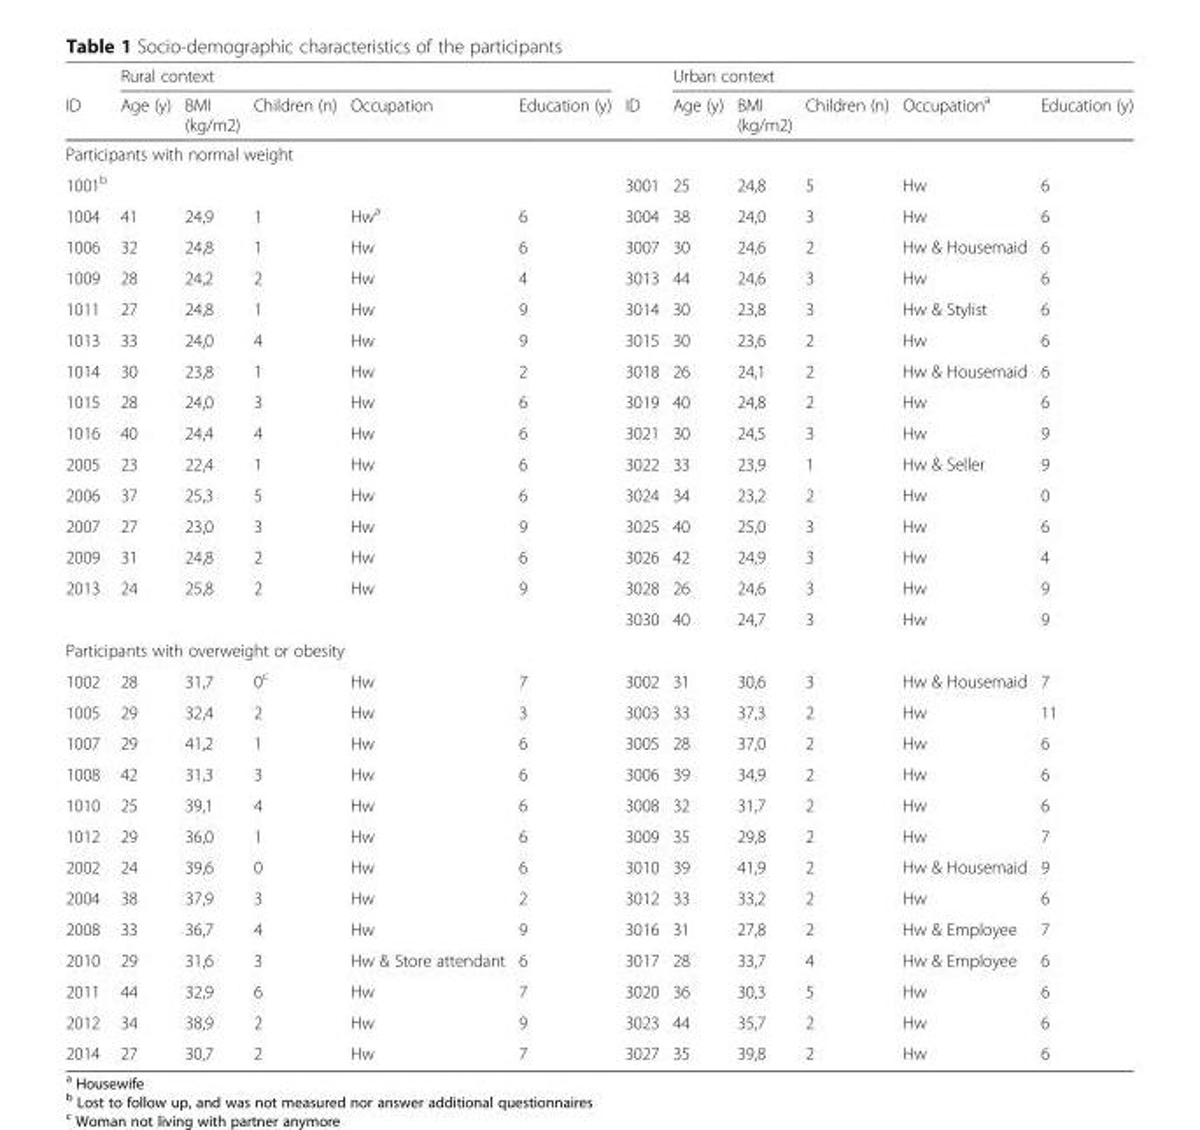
<table><thead><tr><td rowspan="2">ID</td><td colspan="5">Rural context</td><td rowspan="2">ID</td><td colspan="5">Urban context</td></tr><tr><td>Age (y)</td><td>BMI (kg/m2)</td><td>Children (n)</td><td>Occupation</td><td>Education (y)</td><td>Age (y)</td><td>BMI (kg/m2)</td><td>Children (n)</td><td>Occupation<sup>a</sup></td><td>Education (y)</td></tr></thead><tbody><tr><td colspan="12">Participants with normal weight</td></tr><tr><td>1001<sup>b</sup></td><td></td><td></td><td></td><td></td><td></td><td>3001</td><td>25</td><td>24,8</td><td>5</td><td>Hw</td><td>6</td></tr><tr><td>1004</td><td>41</td><td>24,9</td><td>1</td><td>Hw<sup>a</sup></td><td>6</td><td>3004</td><td>38</td><td>24,0</td><td>3</td><td>Hw</td><td>6</td></tr><tr><td>1006</td><td>32</td><td>24,8</td><td>1</td><td>Hw</td><td>6</td><td>3007</td><td>30</td><td>24,6</td><td>2</td><td>Hw &amp; Housemaid</td><td>6</td></tr><tr><td>1009</td><td>28</td><td>24,2</td><td>2</td><td>Hw</td><td>4</td><td>3013</td><td>44</td><td>24,6</td><td>3</td><td>Hw</td><td>6</td></tr><tr><td>1011</td><td>27</td><td>24,8</td><td>1</td><td>Hw</td><td>9</td><td>3014</td><td>30</td><td>23,8</td><td>3</td><td>Hw &amp; Stylist</td><td>6</td></tr><tr><td>1013</td><td>33</td><td>24,0</td><td>4</td><td>Hw</td><td>9</td><td>3015</td><td>30</td><td>23,6</td><td>2</td><td>Hw</td><td>6</td></tr><tr><td>1014</td><td>30</td><td>23,8</td><td>1</td><td>Hw</td><td>2</td><td>3018</td><td>26</td><td>24,1</td><td>2</td><td>Hw &amp; Housemaid</td><td>6</td></tr><tr><td>1015</td><td>28</td><td>24,0</td><td>3</td><td>Hw</td><td>6</td><td>3019</td><td>40</td><td>24,8</td><td>2</td><td>Hw</td><td>6</td></tr><tr><td>1016</td><td>40</td><td>24,4</td><td>4</td><td>Hw</td><td>6</td><td>3021</td><td>30</td><td>24,5</td><td>3</td><td>Hw</td><td>9</td></tr><tr><td>2005</td><td>23</td><td>22,4</td><td>1</td><td>Hw</td><td>6</td><td>3022</td><td>33</td><td>23,9</td><td>1</td><td>Hw &amp; Seller</td><td>9</td></tr><tr><td>2006</td><td>37</td><td>25,3</td><td>5</td><td>Hw</td><td>6</td><td>3024</td><td>34</td><td>23,2</td><td>2</td><td>Hw</td><td>0</td></tr><tr><td>2007</td><td>27</td><td>23,0</td><td>3</td><td>Hw</td><td>9</td><td>3025</td><td>40</td><td>25,0</td><td>3</td><td>Hw</td><td>6</td></tr><tr><td>2009</td><td>31</td><td>24,8</td><td>2</td><td>Hw</td><td>6</td><td>3026</td><td>42</td><td>24,9</td><td>3</td><td>Hw</td><td>4</td></tr><tr><td rowspan="2">2013</td><td>24</td><td>25,8</td><td>2</td><td>Hw</td><td>9</td><td>3028</td><td>26</td><td>24,6</td><td>3</td><td>Hw</td><td>9</td></tr><tr><td></td><td></td><td></td><td></td><td></td><td>3030</td><td>40</td><td>24,7</td><td>3</td><td>Hw</td><td>9</td></tr><tr><td colspan="12">Participants with overweight or obesity</td></tr><tr><td>1002</td><td>28</td><td>31,7</td><td>0<sup>c</sup></td><td>Hw</td><td>7</td><td>3002</td><td>31</td><td>30,6</td><td>3</td><td>Hw &amp; Housemaid</td><td>7</td></tr><tr><td>1005</td><td>29</td><td>32,4</td><td>2</td><td>Hw</td><td>3</td><td>3003</td><td>33</td><td>37,3</td><td>2</td><td>Hw</td><td>11</td></tr><tr><td>1007</td><td>29</td><td>41,2</td><td>1</td><td>Hw</td><td>6</td><td>3005</td><td>28</td><td>37,0</td><td>2</td><td>Hw</td><td>6</td></tr><tr><td>1008</td><td>42</td><td>31,3</td><td>3</td><td>Hw</td><td>6</td><td>3006</td><td>39</td><td>34,9</td><td>2</td><td>Hw</td><td>6</td></tr><tr><td>1010</td><td>25</td><td>39,1</td><td>4</td><td>Hw</td><td>6</td><td>3008</td><td>32</td><td>31,7</td><td>2</td><td>Hw</td><td>6</td></tr><tr><td>1012</td><td>29</td><td>36,0</td><td>1</td><td>Hw</td><td>6</td><td>3009</td><td>35</td><td>29,8</td><td>2</td><td>Hw</td><td>7</td></tr><tr><td>2002</td><td>24</td><td>39,6</td><td>0</td><td>Hw</td><td>6</td><td>3010</td><td>39</td><td>41,9</td><td>2</td><td>Hw &amp; Housemaid</td><td>9</td></tr><tr><td>2004</td><td>38</td><td>37,9</td><td>3</td><td>Hw</td><td>2</td><td>3012</td><td>33</td><td>33,2</td><td>2</td><td>Hw</td><td>6</td></tr><tr><td>2008</td><td>33</td><td>36,7</td><td>4</td><td>Hw</td><td>9</td><td>3016</td><td>31</td><td>27,8</td><td>2</td><td>Hw &amp; Employee</td><td>7</td></tr><tr><td>2010</td><td>29</td><td>31,6</td><td>3</td><td>Hw &amp; Store attendant</td><td>6</td><td>3017</td><td>28</td><td>33,7</td><td>4</td><td>Hw &amp; Employee</td><td>6</td></tr><tr><td>2011</td><td>44</td><td>32,9</td><td>6</td><td>Hw</td><td>7</td><td>3020</td><td>36</td><td>30,3</td><td>5</td><td>Hw</td><td>6</td></tr><tr><td>2012</td><td>34</td><td>38,9</td><td>2</td><td>Hw</td><td>9</td><td>3023</td><td>44</td><td>35,7</td><td>2</td><td>Hw</td><td>6</td></tr><tr><td>2014</td><td>27</td><td>30,7</td><td>2</td><td>Hw</td><td>7</td><td>3027</td><td>35</td><td>39,8</td><td>2</td><td>Hw</td><td>6</td></tr></tbody></table>